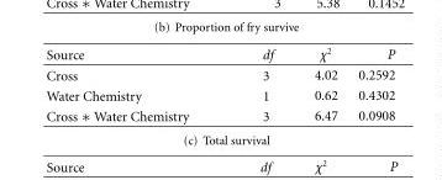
<table><thead><tr><td>Source</td><td>df</td><td>χ<sup>2</sup></td><td>P</td></tr></thead><tbody><tr><td>Cross</td><td>3</td><td>4.02</td><td>0.2592</td></tr><tr><td>Water Chemistry</td><td>1</td><td>0.62</td><td>0.4302</td></tr><tr><td>Cross ∗ Water Chemistry</td><td>3</td><td>6.47</td><td>0.0908</td></tr></tbody></table>